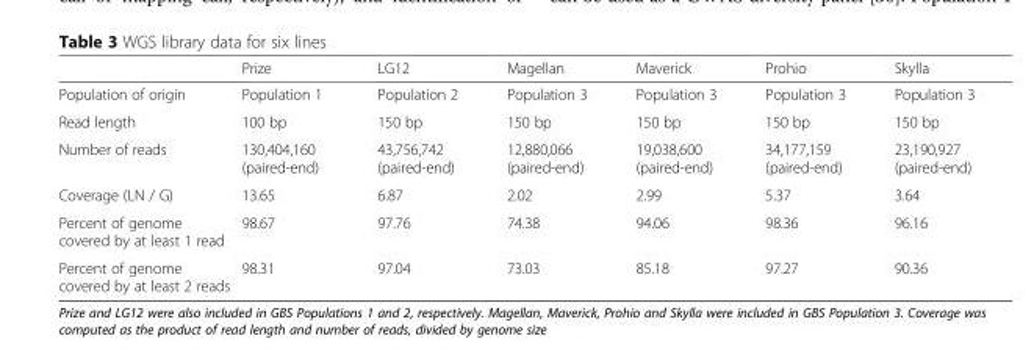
<table><thead><tr><td></td><td>Prize</td><td>LG12</td><td>Magellan</td><td>Maverick</td><td>Prohio</td><td>Skylla</td></tr></thead><tbody><tr><td>Population of origin</td><td>Population 1</td><td>Population 2</td><td>Population 3</td><td>Population 3</td><td>Population 3</td><td>Population 3</td></tr><tr><td>Read length</td><td>100 bp</td><td>150 bp</td><td>150 bp</td><td>150 bp</td><td>150 bp</td><td>150 bp</td></tr><tr><td>Number of reads</td><td>130,404,160 (paired-end)</td><td>43,756,742 (paired-end)</td><td>12,880,066 (paired-end)</td><td>19,038,600 (paired-end)</td><td>34,177,159 (paired-end)</td><td>23,190,927 (paired-end)</td></tr><tr><td>Coverage (LN / G)</td><td>13.65</td><td>6.87</td><td>2.02</td><td>2.99</td><td>5.37</td><td>3.64</td></tr><tr><td>Percent of genome covered by at least 1 read</td><td>98.67</td><td>97.76</td><td>74.38</td><td>94.06</td><td>98.36</td><td>96.16</td></tr><tr><td>Percent of genome covered by at least 2 reads</td><td>98.31</td><td>97.04</td><td>73.03</td><td>85.18</td><td>97.27</td><td>90.36</td></tr></tbody></table>